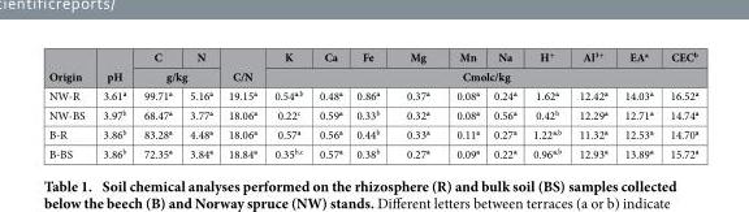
<table><thead><tr><td rowspan="2">Origin</td><td rowspan="2">pH</td><td>C</td><td>N</td><td rowspan="2">C/N</td><td>K</td><td>Ca</td><td>Fe</td><td>Mg</td><td>Mn</td><td>Na</td><td>H<sup>+</sup></td><td>Al<sup>3+</sup></td><td>EA<sup>a</sup></td><td>CEC<sup>b</sup></td></tr><tr><td colspan="2">g/kg</td><td colspan="10">Cmolc/kg</td></tr></thead><tbody><tr><td>NW-R</td><td>3.61<sup>a</sup></td><td>99.71<sup>a</sup></td><td>5.16<sup>a</sup></td><td>19.15<sup>a</sup></td><td>0.54<sup>a</sup>,<sup>b</sup></td><td>0.48<sup>a</sup></td><td>0.86<sup>a</sup></td><td>0.37<sup>a</sup></td><td>0.08<sup>a</sup></td><td>0.24<sup>a</sup></td><td>1.62<sup>a</sup></td><td>12.42<sup>a</sup></td><td>14.03<sup>a</sup></td><td>16.52<sup>a</sup></td></tr><tr><td>NW-BS</td><td>3.97<sup>b</sup></td><td>68.47<sup>a</sup></td><td>3.77<sup>a</sup></td><td>18.06<sup>a</sup></td><td>0.22<sup>c</sup></td><td>0.59<sup>a</sup></td><td>0.33<sup>b</sup></td><td>0.32<sup>a</sup></td><td>0.08<sup>a</sup></td><td>0.56<sup>a</sup></td><td>0.42<sup>b</sup></td><td>12.29<sup>a</sup></td><td>12.71<sup>a</sup></td><td>14.74<sup>a</sup></td></tr><tr><td>B-R</td><td>3.86<sup>b</sup></td><td>83.28<sup>a</sup></td><td>4.48<sup>a</sup></td><td>18.06<sup>a</sup></td><td>0.57<sup>a</sup></td><td>0.56<sup>a</sup></td><td>0.44<sup>b</sup></td><td>0.33<sup>a</sup></td><td>0.11<sup>a</sup></td><td>0.27<sup>a</sup></td><td>1.22<sup>a</sup>,<sup>b</sup></td><td>11.32<sup>a</sup></td><td>12.53<sup>a</sup></td><td>14.70<sup>a</sup></td></tr><tr><td>B-BS</td><td>3.86<sup>b</sup></td><td>72.35<sup>a</sup></td><td>3.84<sup>a</sup></td><td>18.84<sup>a</sup></td><td>0.35<sup>b</sup>,<sup>c</sup></td><td>0.57<sup>a</sup></td><td>0.38<sup>b</sup></td><td>0.27<sup>a</sup></td><td>0.09<sup>a</sup></td><td>0.22<sup>a</sup></td><td>0.96<sup>a</sup>,<sup>b</sup></td><td>12.93<sup>a</sup></td><td>13.89<sup>a</sup></td><td>15.72<sup>a</sup></td></tr></tbody></table>